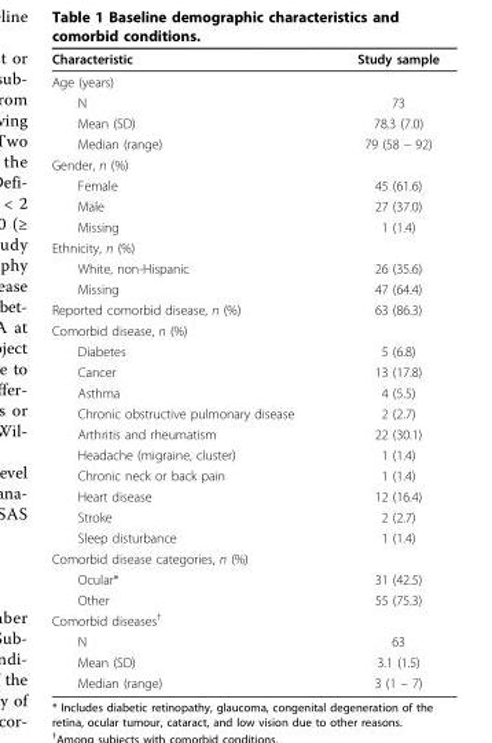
<table><thead><tr><td>Characteristic</td><td>Study sample</td></tr></thead><tbody><tr><td colspan="2">Age (years)</td></tr><tr><td>N</td><td>73</td></tr><tr><td>Mean (SD)</td><td>78.3 (7.0)</td></tr><tr><td>Median (range)</td><td>79 (58 – 92)</td></tr><tr><td colspan="2">Gender, n (%)</td></tr><tr><td>Female</td><td>45 (61.6)</td></tr><tr><td>Male</td><td>27 (37.0)</td></tr><tr><td>Missing</td><td>1 (1.4)</td></tr><tr><td colspan="2">Ethnicity, n (%)</td></tr><tr><td>White, non-Hispanic</td><td>26 (35.6)</td></tr><tr><td>Missing</td><td>47 (64.4)</td></tr><tr><td>Reported comorbid disease, n (%)</td><td>63 (86.3)</td></tr><tr><td colspan="2">Comorbid disease, n (%)</td></tr><tr><td>Diabetes</td><td>5 (6.8)</td></tr><tr><td>Cancer</td><td>13 (17.8)</td></tr><tr><td>Asthma</td><td>4 (5.5)</td></tr><tr><td>Chronic obstructive pulmonary disease</td><td>2 (2.7)</td></tr><tr><td>Arthritis and rheumatism</td><td>22 (30.1)</td></tr><tr><td>Headache (migraine, cluster)</td><td>1 (1.4)</td></tr><tr><td>Chronic neck or back pain</td><td>1 (1.4)</td></tr><tr><td>Heart disease</td><td>12 (16.4)</td></tr><tr><td>Stroke</td><td>2 (2.7)</td></tr><tr><td>Sleep disturbance</td><td>1 (1.4)</td></tr><tr><td colspan="2">Comorbid disease categories, n (%)</td></tr><tr><td>Ocular*</td><td>31 (42.5)</td></tr><tr><td>Other</td><td>55 (75.3)</td></tr><tr><td colspan="2">Comorbid diseases<sup>†</sup></td></tr><tr><td>N</td><td>63</td></tr><tr><td>Mean (SD)</td><td>3.1 (1.5)</td></tr><tr><td>Median (range)</td><td>3 (1 – 7)</td></tr></tbody></table>